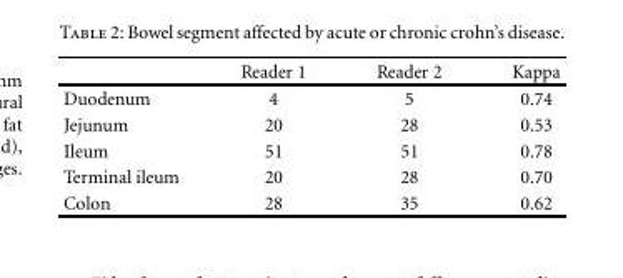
<table><thead><tr><td></td><td>Reader 1</td><td>Reader 2</td><td>Kappa</td></tr></thead><tbody><tr><td>Duodenum</td><td>4</td><td>5</td><td>0.74</td></tr><tr><td>Jejunum</td><td>20</td><td>28</td><td>0.53</td></tr><tr><td>Ileum</td><td>51</td><td>51</td><td>0.78</td></tr><tr><td>Terminal ileum</td><td>20</td><td>28</td><td>0.70</td></tr><tr><td>Colon</td><td>28</td><td>35</td><td>0.62</td></tr></tbody></table>